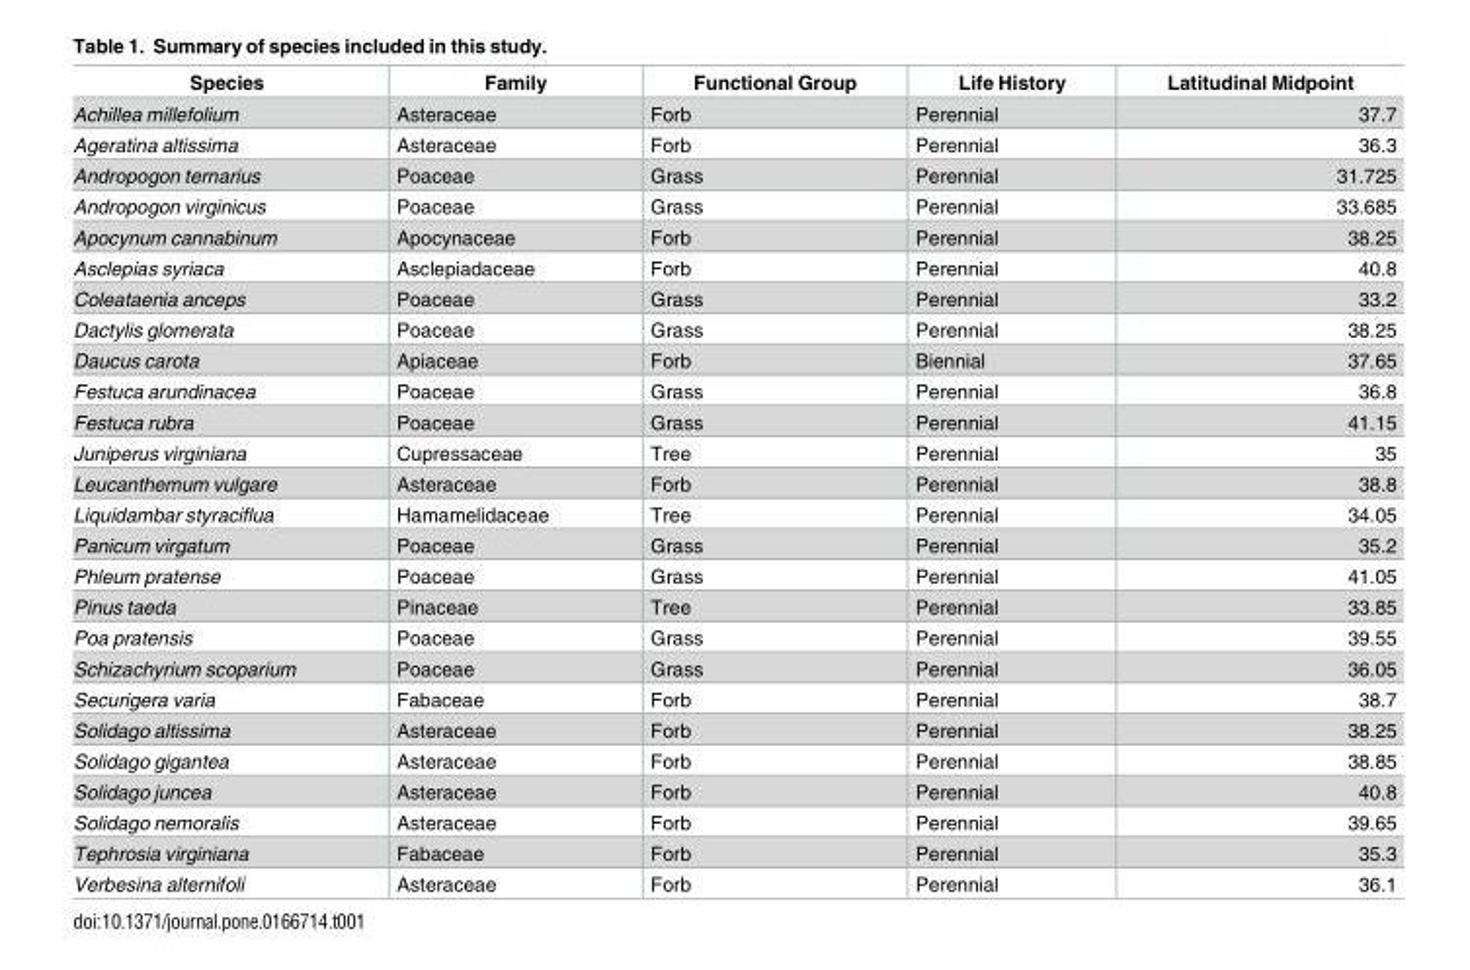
<table><thead><tr><td>Species</td><td>Family</td><td>Functional Group</td><td>Life History</td><td>Latitudinal Midpoint</td></tr></thead><tbody><tr><td>Achillea millefolium</td><td>Asteraceae</td><td>Forb</td><td>Perennial</td><td>37.7</td></tr><tr><td>Ageratina altissima</td><td>Asteraceae</td><td>Forb</td><td>Perennial</td><td>36.3</td></tr><tr><td>Andropogon ternarius</td><td>Poaceae</td><td>Grass</td><td>Perennial</td><td>31.725</td></tr><tr><td>Andropogon virginicus</td><td>Poaceae</td><td>Grass</td><td>Perennial</td><td>33.685</td></tr><tr><td>Apocynum cannabinum</td><td>Apocynaceae</td><td>Forb</td><td>Perennial</td><td>38.25</td></tr><tr><td>Asclepias syriaca</td><td>Asclepiadaceae</td><td>Forb</td><td>Perennial</td><td>40.8</td></tr><tr><td>Coleataenia anceps</td><td>Poaceae</td><td>Grass</td><td>Perennial</td><td>33.2</td></tr><tr><td>Dactylis glomerata</td><td>Poaceae</td><td>Grass</td><td>Perennial</td><td>38.25</td></tr><tr><td>Daucus carota</td><td>Apiaceae</td><td>Forb</td><td>Biennial</td><td>37.65</td></tr><tr><td>Festuca arundinacea</td><td>Poaceae</td><td>Grass</td><td>Perennial</td><td>36.8</td></tr><tr><td>Festuca rubra</td><td>Poaceae</td><td>Grass</td><td>Perennial</td><td>41.15</td></tr><tr><td>Juniperus virginiana</td><td>Cupressaceae</td><td>Tree</td><td>Perennial</td><td>35</td></tr><tr><td>Leucanthemum vulgare</td><td>Asteraceae</td><td>Forb</td><td>Perennial</td><td>38.8</td></tr><tr><td>Liquidambar styraciflua</td><td>Hamamelidaceae</td><td>Tree</td><td>Perennial</td><td>34.05</td></tr><tr><td>Panicum virgatum</td><td>Poaceae</td><td>Grass</td><td>Perennial</td><td>35.2</td></tr><tr><td>Phleum pratense</td><td>Poaceae</td><td>Grass</td><td>Perennial</td><td>41.05</td></tr><tr><td>Pinus taeda</td><td>Pinaceae</td><td>Tree</td><td>Perennial</td><td>33.85</td></tr><tr><td>Poa pratensis</td><td>Poaceae</td><td>Grass</td><td>Perennial</td><td>39.55</td></tr><tr><td>Schizachyrium scoparium</td><td>Poaceae</td><td>Grass</td><td>Perennial</td><td>36.05</td></tr><tr><td>Securigera varia</td><td>Fabaceae</td><td>Forb</td><td>Perennial</td><td>38.7</td></tr><tr><td>Solidago altissima</td><td>Asteraceae</td><td>Forb</td><td>Perennial</td><td>38.25</td></tr><tr><td>Solidago gigantea</td><td>Asteraceae</td><td>Forb</td><td>Perennial</td><td>38.85</td></tr><tr><td>Solidago juncea</td><td>Asteraceae</td><td>Forb</td><td>Perennial</td><td>40.8</td></tr><tr><td>Solidago nemoralis</td><td>Asteraceae</td><td>Forb</td><td>Perennial</td><td>39.65</td></tr><tr><td>Tephrosia virginiana</td><td>Fabaceae</td><td>Forb</td><td>Perennial</td><td>35.3</td></tr><tr><td>Verbesina alternifoli</td><td>Asteraceae</td><td>Forb</td><td>Perennial</td><td>36.1</td></tr></tbody></table>